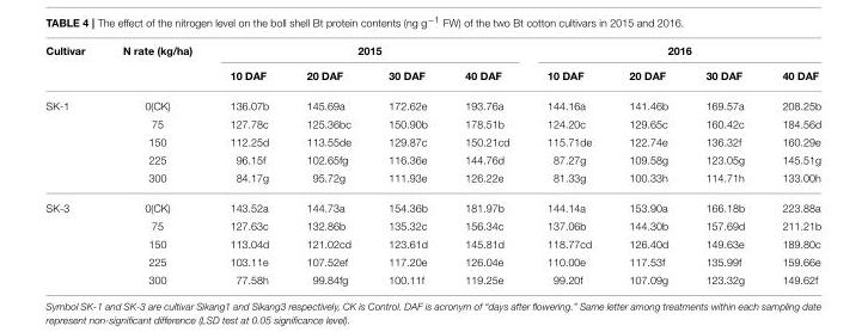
<table><thead><tr><td rowspan="2">Cultivar</td><td rowspan="2">N rate (kg/ha)</td><td colspan="4">2015</td><td colspan="4">2016</td></tr><tr><td>10 DAF</td><td>20 DAF</td><td>30 DAF</td><td>40 DAF</td><td>10 DAF</td><td>20 DAF</td><td>30 DAF</td><td>40 DAF</td></tr></thead><tbody><tr><td rowspan="5">SK-1</td><td>0(CK)</td><td>136.07b</td><td>145.69a</td><td>172.62e</td><td>193.76a</td><td>144.16a</td><td>141.46b</td><td>169.57a</td><td>208.25b</td></tr><tr><td>75</td><td>127.78c</td><td>125.36bc</td><td>150.90b</td><td>178.51b</td><td>124.20c</td><td>129.65c</td><td>160.42c</td><td>184.56d</td></tr><tr><td>150</td><td>112.25d</td><td>113.55de</td><td>129.87c</td><td>150.21cd</td><td>115.71de</td><td>122.74e</td><td>136.32f</td><td>160.29e</td></tr><tr><td>225</td><td>96.15f</td><td>102.65fg</td><td>116.36e</td><td>144.76d</td><td>87.27g</td><td>109.58g</td><td>123.05g</td><td>145.51g</td></tr><tr><td>300</td><td>84.17g</td><td>95.72g</td><td>111.93e</td><td>126.22e</td><td>81.33g</td><td>100.33h</td><td>114.71h</td><td>133.00h</td></tr><tr><td rowspan="5">SK-3</td><td>0(CK)</td><td>143.52a</td><td>144.73a</td><td>154.36b</td><td>181.97b</td><td>144.14a</td><td>153.90a</td><td>166.18b</td><td>223.88a</td></tr><tr><td>75</td><td>127.63c</td><td>132.86b</td><td>135.32c</td><td>156.34c</td><td>137.06b</td><td>144.30b</td><td>157.69d</td><td>211.21b</td></tr><tr><td>150</td><td>113.04d</td><td>121.02cd</td><td>123.61d</td><td>145.81d</td><td>118.77cd</td><td>126.40d</td><td>149.63e</td><td>189.80c</td></tr><tr><td>225</td><td>103.11e</td><td>107.52ef</td><td>117.20e</td><td>126.04e</td><td>110.00e</td><td>117.53f</td><td>135.99f</td><td>159.66e</td></tr><tr><td>300</td><td>77.58h</td><td>99.84fg</td><td>100.11f</td><td>119.25e</td><td>99.20f</td><td>107.09g</td><td>123.32g</td><td>149.62f</td></tr></tbody></table>